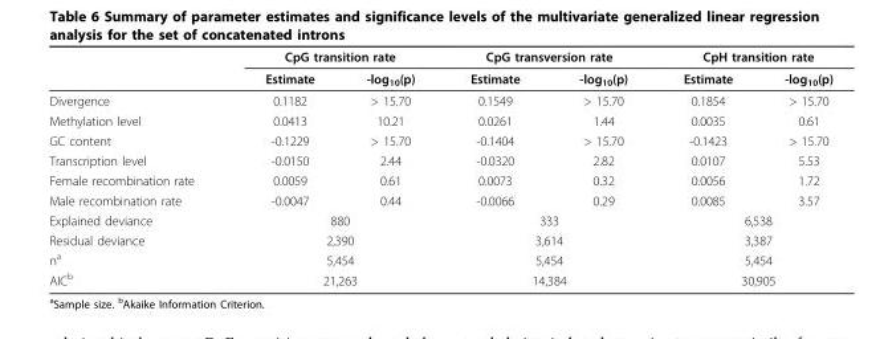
<table><thead><tr><td rowspan="2"></td><td colspan="2">CpG transition rate</td><td colspan="2">CpG transversion rate</td><td colspan="2">CpH transition rate</td></tr><tr><td>Estimate</td><td>-log<sub>10</sub>(p)</td><td>Estimate</td><td>-log<sub>10</sub>(p)</td><td>Estimate</td><td>-log<sub>10</sub>(p)</td></tr></thead><tbody><tr><td>Divergence</td><td>0.1182</td><td>&gt; 15.70</td><td>0.1549</td><td>&gt; 15.70</td><td>0.1854</td><td>&gt; 15.70</td></tr><tr><td>Methylation level</td><td>0.0413</td><td>10.21</td><td>0.0261</td><td>1.44</td><td>0.0035</td><td>0.61</td></tr><tr><td>GC content</td><td>-0.1229</td><td>&gt; 15.70</td><td>-0.1404</td><td>&gt; 15.70</td><td>-0.1423</td><td>&gt; 15.70</td></tr><tr><td>Transcription level</td><td>-0.0150</td><td>2.44</td><td>-0.0320</td><td>2.82</td><td>0.0107</td><td>5.53</td></tr><tr><td>Female recombination rate</td><td>0.0059</td><td>0.61</td><td>0.0073</td><td>0.32</td><td>0.0056</td><td>1.72</td></tr><tr><td>Male recombination rate</td><td>-0.0047</td><td>0.44</td><td>-0.0066</td><td>0.29</td><td>0.0085</td><td>3.57</td></tr><tr><td>Explained deviance</td><td colspan="2">880</td><td colspan="2">333</td><td colspan="2">6,538</td></tr><tr><td>Residual deviance</td><td colspan="2">2,390</td><td colspan="2">3,614</td><td colspan="2">3,387</td></tr><tr><td>n<sup>a</sup></td><td colspan="2">5,454</td><td colspan="2">5,454</td><td colspan="2">5,454</td></tr><tr><td>AIC<sup>b</sup></td><td colspan="2">21,263</td><td colspan="2">14,384</td><td colspan="2">30,905</td></tr></tbody></table>